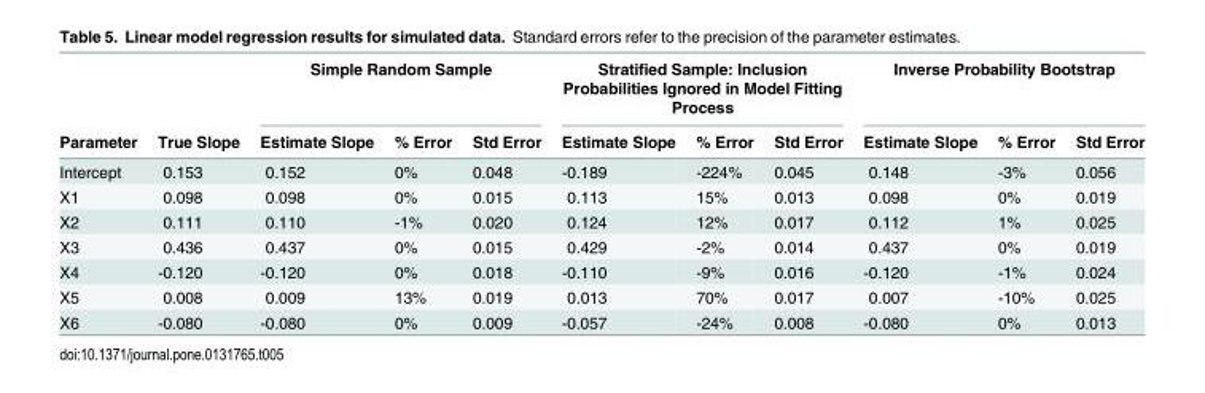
<table><thead><tr><td rowspan="2">Parameter</td><td rowspan="2">True Slope</td><td colspan="3">Simple Random Sample</td><td colspan="3">Stratified Sample: Inclusion Probabilities Ignored in Model Fitting Process</td><td colspan="3">Inverse Probability Bootstrap</td></tr><tr><td>Estimate Slope</td><td>% Error</td><td>Std Error</td><td>Estimate Slope</td><td>% Error</td><td>Std Error</td><td>Estimate Slope</td><td>% Error</td><td>Std Error</td></tr></thead><tbody><tr><td>Intercept</td><td>0.153</td><td>0.152</td><td>0%</td><td>0.048</td><td>-0.189</td><td>-224%</td><td>0.045</td><td>0.148</td><td>-3%</td><td>0.056</td></tr><tr><td>X1</td><td>0.098</td><td>0.098</td><td>0%</td><td>0.015</td><td>0.113</td><td>15%</td><td>0.013</td><td>0.098</td><td>0%</td><td>0.019</td></tr><tr><td>X2</td><td>0.111</td><td>0.110</td><td>-1%</td><td>0.020</td><td>0.124</td><td>12%</td><td>0.017</td><td>0.112</td><td>1%</td><td>0.025</td></tr><tr><td>X3</td><td>0.436</td><td>0.437</td><td>0%</td><td>0.015</td><td>0.429</td><td>-2%</td><td>0.014</td><td>0.437</td><td>0%</td><td>0.019</td></tr><tr><td>X4</td><td>-0.120</td><td>-0.120</td><td>0%</td><td>0.018</td><td>-0.110</td><td>-9%</td><td>0.016</td><td>-0.120</td><td>-1%</td><td>0.024</td></tr><tr><td>X5</td><td>0.008</td><td>0.009</td><td>13%</td><td>0.019</td><td>0.013</td><td>70%</td><td>0.017</td><td>0.007</td><td>-10%</td><td>0.025</td></tr><tr><td>X6</td><td>-0.080</td><td>-0.080</td><td>0%</td><td>0.009</td><td>-0.057</td><td>-24%</td><td>0.008</td><td>-0.080</td><td>0%</td><td>0.013</td></tr></tbody></table>